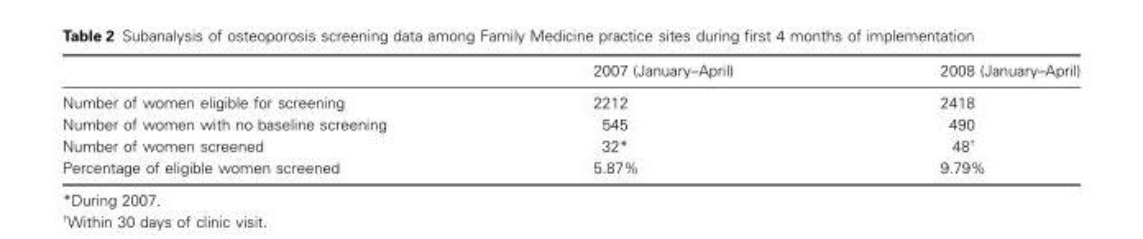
<table><thead><tr><td></td><td>2007 (January–April)</td><td>2008 (January–April)</td></tr></thead><tbody><tr><td>Number of women eligible for screening</td><td>2212</td><td>2418</td></tr><tr><td>Number of women with no baseline screening</td><td>545</td><td>490</td></tr><tr><td>Number of women screened</td><td>32*</td><td>48†</td></tr><tr><td>Percentage of eligible women screened</td><td>5.87%</td><td>9.79%</td></tr></tbody></table>